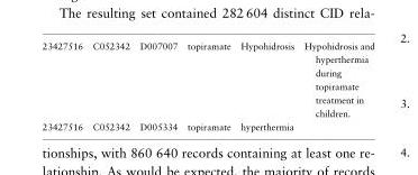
<table><tbody><tr><td>23427516</td><td>C052342</td><td>D007007</td><td>topiramate</td><td>Hypohidrosis</td><td>Hypohidrosis and hyperthermia during topiramate treatment in children.</td></tr><tr><td>23427516</td><td>C052342</td><td>D005334</td><td>topiramate</td><td>hyperthermia</td><td></td></tr></tbody></table>